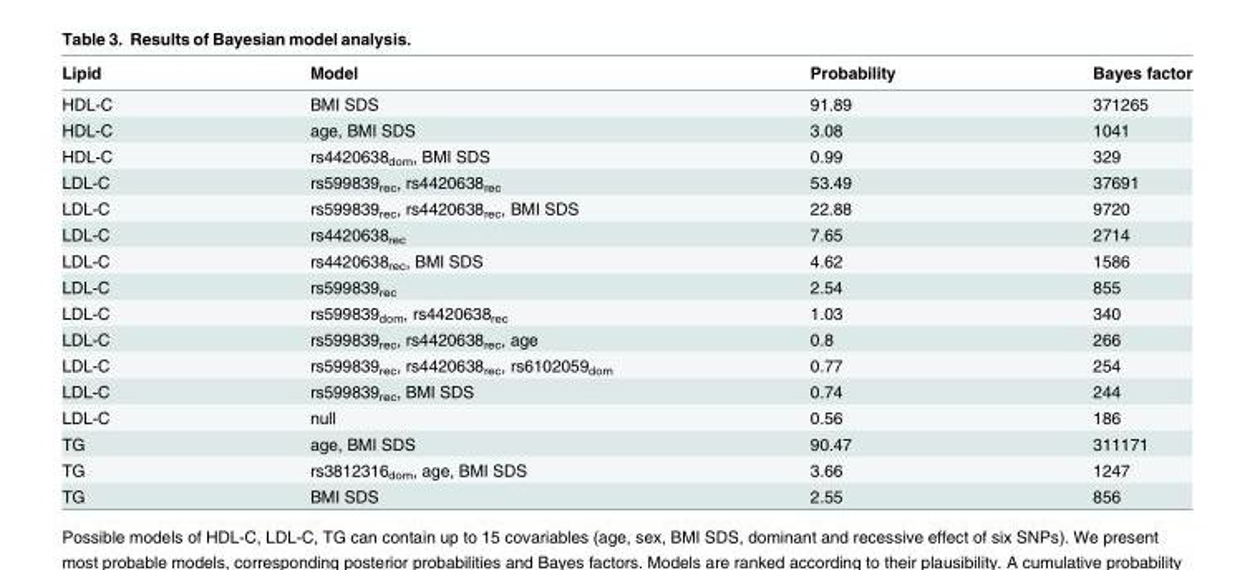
<table><thead><tr><td>Lipid</td><td>Model</td><td>Probability</td><td>Bayes factor</td></tr></thead><tbody><tr><td>HDL-C</td><td>BMI SDS</td><td>91.89</td><td>371265</td></tr><tr><td>HDL-C</td><td>age, BMI SDS</td><td>3.08</td><td>1041</td></tr><tr><td>HDL-C</td><td>rs4420638<sub>dom</sub>, BMI SDS</td><td>0.99</td><td>329</td></tr><tr><td>LDL-C</td><td>rs599839<sub>rec</sub>, rs4420638<sub>rec</sub></td><td>53.49</td><td>37691</td></tr><tr><td>LDL-C</td><td>rs599839<sub>rec</sub>, rs4420638<sub>rec</sub>, BMI SDS</td><td>22.88</td><td>9720</td></tr><tr><td>LDL-C</td><td>rs4420638<sub>rec</sub></td><td>7.65</td><td>2714</td></tr><tr><td>LDL-C</td><td>rs4420638<sub>rec</sub>, BMI SDS</td><td>4.62</td><td>1586</td></tr><tr><td>LDL-C</td><td>rs599839<sub>rec</sub></td><td>2.54</td><td>855</td></tr><tr><td>LDL-C</td><td>rs599839<sub>dom</sub>, rs4420638<sub>rec</sub></td><td>1.03</td><td>340</td></tr><tr><td>LDL-C</td><td>rs599839<sub>rec</sub>, rs4420638<sub>rec</sub>, age</td><td>0.8</td><td>266</td></tr><tr><td>LDL-C</td><td>rs599839<sub>rec</sub>, rs4420638<sub>rec</sub>, rs6102059<sub>dom</sub></td><td>0.77</td><td>254</td></tr><tr><td>LDL-C</td><td>rs599839<sub>rec</sub>, BMI SDS</td><td>0.74</td><td>244</td></tr><tr><td>LDL-C</td><td>null</td><td>0.56</td><td>186</td></tr><tr><td>TG</td><td>age, BMI SDS</td><td>90.47</td><td>311171</td></tr><tr><td>TG</td><td>rs3812316<sub>dom</sub>, age, BMI SDS</td><td>3.66</td><td>1247</td></tr><tr><td>TG</td><td>BMI SDS</td><td>2.55</td><td>856</td></tr></tbody></table>